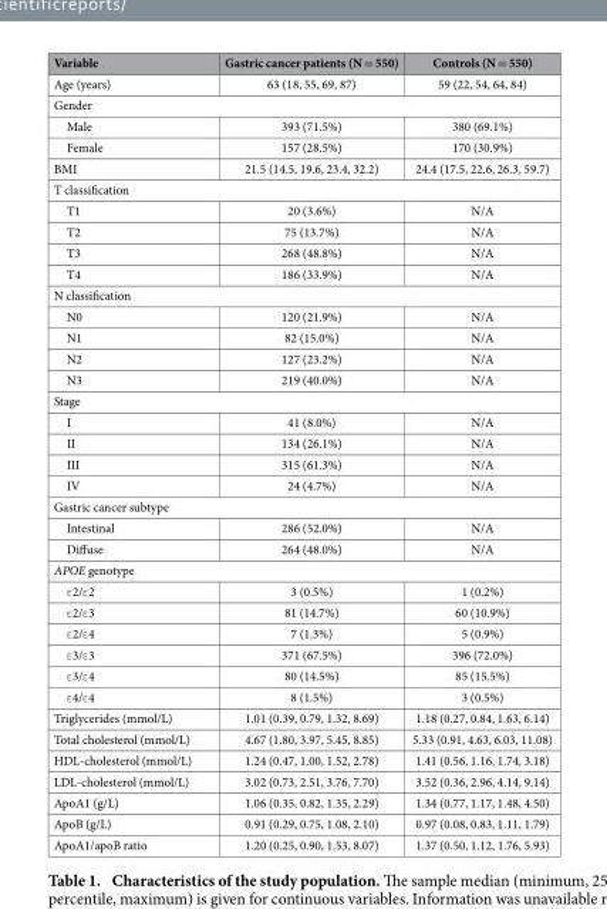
<table><thead><tr><td>Variable</td><td>Gastric cancer patients (N = 550)</td><td>Controls (N = 550)</td></tr></thead><tbody><tr><td>Age (years)</td><td>63 (18, 55, 69, 87)</td><td>59 (22, 54, 64, 84)</td></tr><tr><td colspan="3">Gender</td></tr><tr><td>Male</td><td>393 (71.5%)</td><td>380 (69.1%)</td></tr><tr><td>Female</td><td>157 (28.5%)</td><td>170 (30.9%)</td></tr><tr><td>BMI</td><td>21.5 (14.5, 19.6, 23.4, 32.2)</td><td>24.4 (17.5, 22.6, 26.3, 59.7)</td></tr><tr><td colspan="3">T classification</td></tr><tr><td>T1</td><td>20 (3.6%)</td><td>N/A</td></tr><tr><td>T2</td><td>75 (13.7%)</td><td>N/A</td></tr><tr><td>T3</td><td>268 (48.8%)</td><td>N/A</td></tr><tr><td>T4</td><td>186 (33.9%)</td><td>N/A</td></tr><tr><td colspan="3">N classification</td></tr><tr><td>N0</td><td>120 (21.9%)</td><td>N/A</td></tr><tr><td>N1</td><td>82 (15.0%)</td><td>N/A</td></tr><tr><td>N2</td><td>127 (23.2%)</td><td>N/A</td></tr><tr><td>N3</td><td>219 (40.0%)</td><td>N/A</td></tr><tr><td colspan="3">Stage</td></tr><tr><td>I</td><td>41 (8.0%)</td><td>N/A</td></tr><tr><td>II</td><td>134 (26.1%)</td><td>N/A</td></tr><tr><td>III</td><td>315 (61.3%)</td><td>N/A</td></tr><tr><td>IV</td><td>24 (4.7%)</td><td>N/A</td></tr><tr><td colspan="3">Gastric cancer subtype</td></tr><tr><td>Intestinal</td><td>286 (52.0%)</td><td>N/A</td></tr><tr><td>Diffuse</td><td>264 (48.0%)</td><td>N/A</td></tr><tr><td colspan="3">APOE genotype</td></tr><tr><td>ε 2/ε 2</td><td>3 (0.5%)</td><td>1 (0.2%)</td></tr><tr><td>ε 2/ε 3</td><td>81 (14.7%)</td><td>60 (10.9%)</td></tr><tr><td>ε 2/ε 4</td><td>7 (1.3%)</td><td>5 (0.9%)</td></tr><tr><td>ε 3/ε 3</td><td>371 (67.5%)</td><td>396 (72.0%)</td></tr><tr><td>ε 3/ε 4</td><td>80 (14.5%)</td><td>85 (15.5%)</td></tr><tr><td>ε 4/ε 4</td><td>8 (1.5%)</td><td>3 (0.5%)</td></tr><tr><td>Triglycerides (mmol/L)</td><td>1.01 (0.39, 0.79, 1.32, 8.69)</td><td>1.18 (0.27, 0.84, 1.63, 6.14)</td></tr><tr><td>Total cholesterol (mmol/L)</td><td>4.67 (1.80, 3.97, 5.45, 8.85)</td><td>5.33 (0.91, 4.63, 6.03, 11.08)</td></tr><tr><td>HDL-cholesterol (mmol/L)</td><td>1.24 (0.47, 1.00, 1.52, 2.78)</td><td>1.41 (0.56, 1.16, 1.74, 3.18)</td></tr><tr><td>LDL-cholesterol (mmol/L)</td><td>3.02 (0.73, 2.51, 3.76, 7.70)</td><td>3.52 (0.36, 2.96, 4.14, 9.14)</td></tr><tr><td>ApoA1 (g/L)</td><td>1.06 (0.35, 0.82, 1.35, 2.29)</td><td>1.34 (0.77, 1.17, 1.48, 4.50)</td></tr><tr><td>ApoB (g/L)</td><td>0.91 (0.29, 0.75, 1.08, 2.10)</td><td>0.97 (0.08, 0.83, 1.11, 1.79)</td></tr><tr><td>ApoA1/apoB ratio</td><td>1.20 (0.25, 0.90, 1.53, 8.07)</td><td>1.37 (0.50, 1.12, 1.76, 5.93)</td></tr></tbody></table>